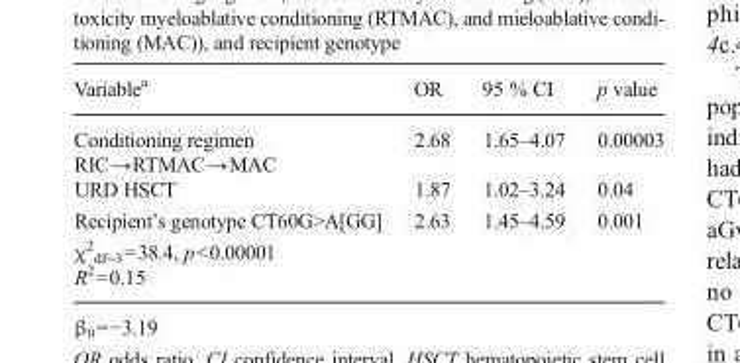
<table><thead><tr><td>Variable<sup>a</sup></td><td>OR</td><td>95 % CI</td><td>p value</td></tr></thead><tbody><tr><td>Conditioning regimen RIC→RTMAC→MAC</td><td>2.68</td><td>1.65–4.07</td><td>0.00003</td></tr><tr><td>URD HSCT</td><td>1.87</td><td>1.02–3.24</td><td>0.04</td></tr><tr><td>Recipient’s genotype CT60G&gt;A[GG]</td><td>2.63</td><td>1.45–4.59</td><td>0.001</td></tr><tr><td colspan="4">χ<sup>2</sup> <sub>df=3</sub>=38.4, p&lt;0.00001 R<sup>2</sup>=0.15</td></tr></tbody></table>